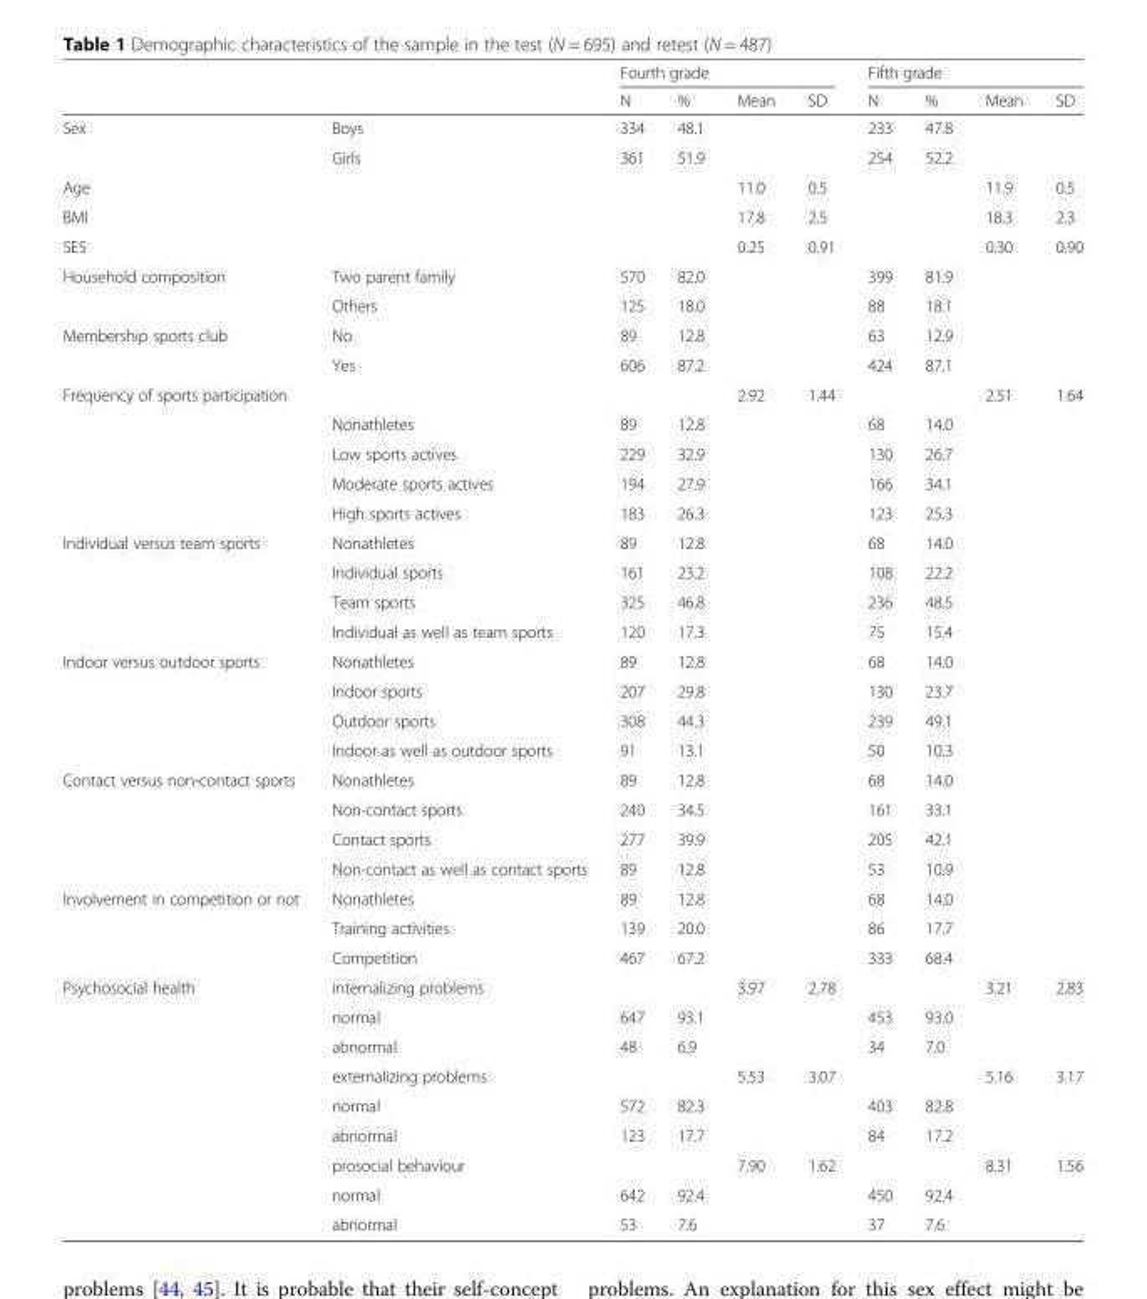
<table><thead><tr><td rowspan="2"></td><td rowspan="2"></td><td colspan="4">Fourth grade</td><td colspan="4">Fifth grade</td></tr><tr><td>N</td><td>%</td><td>Mean</td><td>SD</td><td>N</td><td>%</td><td>Mean</td><td>SD</td></tr></thead><tbody><tr><td rowspan="2">Sex</td><td>Boys</td><td>334</td><td>48.1</td><td></td><td></td><td>233</td><td>47.8</td><td></td><td></td></tr><tr><td>Girls</td><td>361</td><td>51.9</td><td></td><td></td><td>254</td><td>52.2</td><td></td><td></td></tr><tr><td>Age</td><td></td><td></td><td></td><td>11.0</td><td>0.5</td><td></td><td></td><td>11.9</td><td>0.5</td></tr><tr><td>BMI</td><td></td><td></td><td></td><td>17.8</td><td>2.5</td><td></td><td></td><td>18.3</td><td>2.3</td></tr><tr><td>SES</td><td></td><td></td><td></td><td>0.25</td><td>0.91</td><td></td><td></td><td>0.30</td><td>0.90</td></tr><tr><td rowspan="2">Household composition</td><td>Two parent family</td><td>570</td><td>82.0</td><td></td><td></td><td>399</td><td>81.9</td><td></td><td></td></tr><tr><td>Others</td><td>125</td><td>18.0</td><td></td><td></td><td>88</td><td>18.1</td><td></td><td></td></tr><tr><td rowspan="2">Membership sports club</td><td>No</td><td>89</td><td>12.8</td><td></td><td></td><td>63</td><td>12.9</td><td></td><td></td></tr><tr><td>Yes</td><td>606</td><td>87.2</td><td></td><td></td><td>424</td><td>87.1</td><td></td><td></td></tr><tr><td rowspan="5">Frequency of sports participation</td><td></td><td></td><td></td><td>2.92</td><td>1.44</td><td></td><td></td><td>2.51</td><td>1.64</td></tr><tr><td>Nonathletes</td><td>89</td><td>12.8</td><td></td><td></td><td>68</td><td>14.0</td><td></td><td></td></tr><tr><td>Low sports actives</td><td>229</td><td>32.9</td><td></td><td></td><td>130</td><td>26.7</td><td></td><td></td></tr><tr><td>Moderate sports actives</td><td>194</td><td>27.9</td><td></td><td></td><td>166</td><td>34.1</td><td></td><td></td></tr><tr><td>High sports actives</td><td>183</td><td>26.3</td><td></td><td></td><td>123</td><td>25.3</td><td></td><td></td></tr><tr><td rowspan="4">Individual versus team sports</td><td>Nonathletes</td><td>89</td><td>12.8</td><td></td><td></td><td>68</td><td>14.0</td><td></td><td></td></tr><tr><td>Individual sports</td><td>161</td><td>23.2</td><td></td><td></td><td>108</td><td>22.2</td><td></td><td></td></tr><tr><td>Team sports</td><td>325</td><td>46.8</td><td></td><td></td><td>236</td><td>48.5</td><td></td><td></td></tr><tr><td>Individual as well as team sports</td><td>120</td><td>17.3</td><td></td><td></td><td>75</td><td>15.4</td><td></td><td></td></tr><tr><td rowspan="4">Indoor versus outdoor sports</td><td>Nonathletes</td><td>89</td><td>12.8</td><td></td><td></td><td>68</td><td>14.0</td><td></td><td></td></tr><tr><td>Indoor sports</td><td>207</td><td>29.8</td><td></td><td></td><td>130</td><td>23.7</td><td></td><td></td></tr><tr><td>Outdoor sports</td><td>308</td><td>44.3</td><td></td><td></td><td>239</td><td>49.1</td><td></td><td></td></tr><tr><td>Indoor as well as outdoor sports</td><td>91</td><td>13.1</td><td></td><td></td><td>50</td><td>10.3</td><td></td><td></td></tr><tr><td rowspan="4">Contact versus non-contact sports</td><td>Nonathletes</td><td>89</td><td>12.8</td><td></td><td></td><td>68</td><td>14.0</td><td></td><td></td></tr><tr><td>Non-contact sports</td><td>240</td><td>34.5</td><td></td><td></td><td>161</td><td>33.1</td><td></td><td></td></tr><tr><td>Contact sports</td><td>277</td><td>39.9</td><td></td><td></td><td>205</td><td>42.1</td><td></td><td></td></tr><tr><td>Non-contact as well as contact sports</td><td>89</td><td>12.8</td><td></td><td></td><td>53</td><td>10.9</td><td></td><td></td></tr><tr><td rowspan="3">Involvement in competition or not</td><td>Nonathletes</td><td>89</td><td>12.8</td><td></td><td></td><td>68</td><td>14.0</td><td></td><td></td></tr><tr><td>Training activities</td><td>139</td><td>20.0</td><td></td><td></td><td>86</td><td>17.7</td><td></td><td></td></tr><tr><td>Competition</td><td>467</td><td>67.2</td><td></td><td></td><td>333</td><td>68.4</td><td></td><td></td></tr><tr><td rowspan="9">Psychosocial health</td><td>internalizing problems</td><td></td><td></td><td>3.97</td><td>2.78</td><td></td><td></td><td>3.21</td><td>2.83</td></tr><tr><td>normal</td><td>647</td><td>93.1</td><td></td><td></td><td>453</td><td>93.0</td><td></td><td></td></tr><tr><td>abnormal</td><td>48</td><td>6.9</td><td></td><td></td><td>34</td><td>7.0</td><td></td><td></td></tr><tr><td>externalizing problems</td><td></td><td></td><td>5.53</td><td>3.07</td><td></td><td></td><td>5.16</td><td>3.17</td></tr><tr><td>normal</td><td>572</td><td>82.3</td><td></td><td></td><td>403</td><td>82.8</td><td></td><td></td></tr><tr><td>abnormal</td><td>123</td><td>17.7</td><td></td><td></td><td>84</td><td>17.2</td><td></td><td></td></tr><tr><td>prosocial behaviour</td><td></td><td></td><td>7.90</td><td>1.62</td><td></td><td></td><td>8.31</td><td>1.56</td></tr><tr><td>normal</td><td>642</td><td>92.4</td><td></td><td></td><td>450</td><td>92.4</td><td></td><td></td></tr><tr><td>abnormal</td><td>53</td><td>7.6</td><td></td><td></td><td>37</td><td>7.6</td><td></td><td></td></tr></tbody></table>